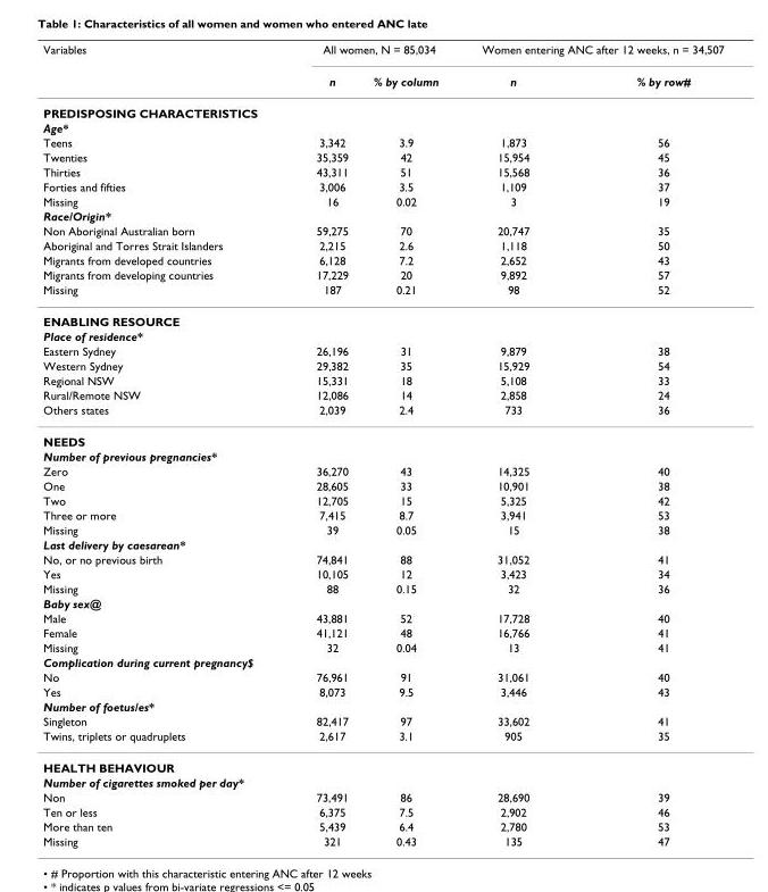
<table><thead><tr><td rowspan="2">Variables</td><td colspan="2">All women, N = 85,034</td><td colspan="2">Women entering ANC after 12 weeks, n = 34,507</td></tr><tr><td>n</td><td>% by column</td><td>n</td><td>% by row#</td></tr></thead><tbody><tr><td colspan="5">PREDISPOSING CHARACTERISTICS</td></tr><tr><td colspan="5">Age*</td></tr><tr><td>Teens</td><td>3,342</td><td>3.9</td><td>1,873</td><td>56</td></tr><tr><td>Twenties</td><td>35,359</td><td>42</td><td>15,954</td><td>45</td></tr><tr><td>Thirties</td><td>43,311</td><td>51</td><td>15,568</td><td>36</td></tr><tr><td>Forties and fifties</td><td>3,006</td><td>3.5</td><td>1,109</td><td>37</td></tr><tr><td>Missing</td><td>16</td><td>0.02</td><td>3</td><td>19</td></tr><tr><td colspan="5">Race/Origin*</td></tr><tr><td>Non Aboriginal Australian born</td><td>59,275</td><td>70</td><td>20,747</td><td>35</td></tr><tr><td>Aboriginal and Torres Strait Islanders</td><td>2,215</td><td>2.6</td><td>1,118</td><td>50</td></tr><tr><td>Migrants from developed countries</td><td>6,128</td><td>7.2</td><td>2,652</td><td>43</td></tr><tr><td>Migrants from developing countries</td><td>17,229</td><td>20</td><td>9,892</td><td>57</td></tr><tr><td>Missing</td><td>187</td><td>0.21</td><td>98</td><td>52</td></tr><tr><td colspan="5">ENABLING RESOURCE</td></tr><tr><td colspan="5">Place of residence*</td></tr><tr><td>Eastern Sydney</td><td>26,196</td><td>31</td><td>9,879</td><td>38</td></tr><tr><td>Western Sydney</td><td>29,382</td><td>35</td><td>15,929</td><td>54</td></tr><tr><td>Regional NSW</td><td>15,331</td><td>18</td><td>5,108</td><td>33</td></tr><tr><td>Rural/Remote NSW</td><td>12,086</td><td>14</td><td>2,858</td><td>24</td></tr><tr><td>Others states</td><td>2,039</td><td>2.4</td><td>733</td><td>36</td></tr><tr><td colspan="5">NEEDS</td></tr><tr><td colspan="5">Number of previous pregnancies*</td></tr><tr><td>Zero</td><td>36,270</td><td>43</td><td>14,325</td><td>40</td></tr><tr><td>One</td><td>28,605</td><td>33</td><td>10,901</td><td>38</td></tr><tr><td>Two</td><td>12,705</td><td>15</td><td>5,325</td><td>42</td></tr><tr><td>Three or more</td><td>7,415</td><td>8.7</td><td>3,941</td><td>53</td></tr><tr><td>Missing</td><td>39</td><td>0.05</td><td>15</td><td>38</td></tr><tr><td colspan="5">Last delivery by caesarean*</td></tr><tr><td>No, or no previous birth</td><td>74,841</td><td>88</td><td>31,052</td><td>41</td></tr><tr><td>Yes</td><td>10,105</td><td>12</td><td>3,423</td><td>34</td></tr><tr><td>Missing</td><td>88</td><td>0.15</td><td>32</td><td>36</td></tr><tr><td colspan="5">Baby sex@</td></tr><tr><td>Male</td><td>43,881</td><td>52</td><td>17,728</td><td>40</td></tr><tr><td>Female</td><td>41,121</td><td>48</td><td>16,766</td><td>41</td></tr><tr><td>Missing</td><td>32</td><td>0.04</td><td>13</td><td>41</td></tr><tr><td colspan="5">Complication during current pregnancy$</td></tr><tr><td>No</td><td>76,961</td><td>91</td><td>31,061</td><td>40</td></tr><tr><td>Yes</td><td>8,073</td><td>9.5</td><td>3,446</td><td>43</td></tr><tr><td colspan="5">Number of foetus/es*</td></tr><tr><td>Singleton</td><td>82,417</td><td>97</td><td>33,602</td><td>41</td></tr><tr><td>Twins, triplets or quadruplets</td><td>2,617</td><td>3.1</td><td>905</td><td>35</td></tr><tr><td colspan="5">HEALTH BEHAVIOUR</td></tr><tr><td colspan="5">Number of cigarettes smoked per day*</td></tr><tr><td>Non</td><td>73,491</td><td>86</td><td>28,690</td><td>39</td></tr><tr><td>Ten or less</td><td>6,375</td><td>7.5</td><td>2,902</td><td>46</td></tr><tr><td>More than ten</td><td>5,439</td><td>6.4</td><td>2,780</td><td>53</td></tr><tr><td>Missing</td><td>321</td><td>0.43</td><td>135</td><td>47</td></tr></tbody></table>